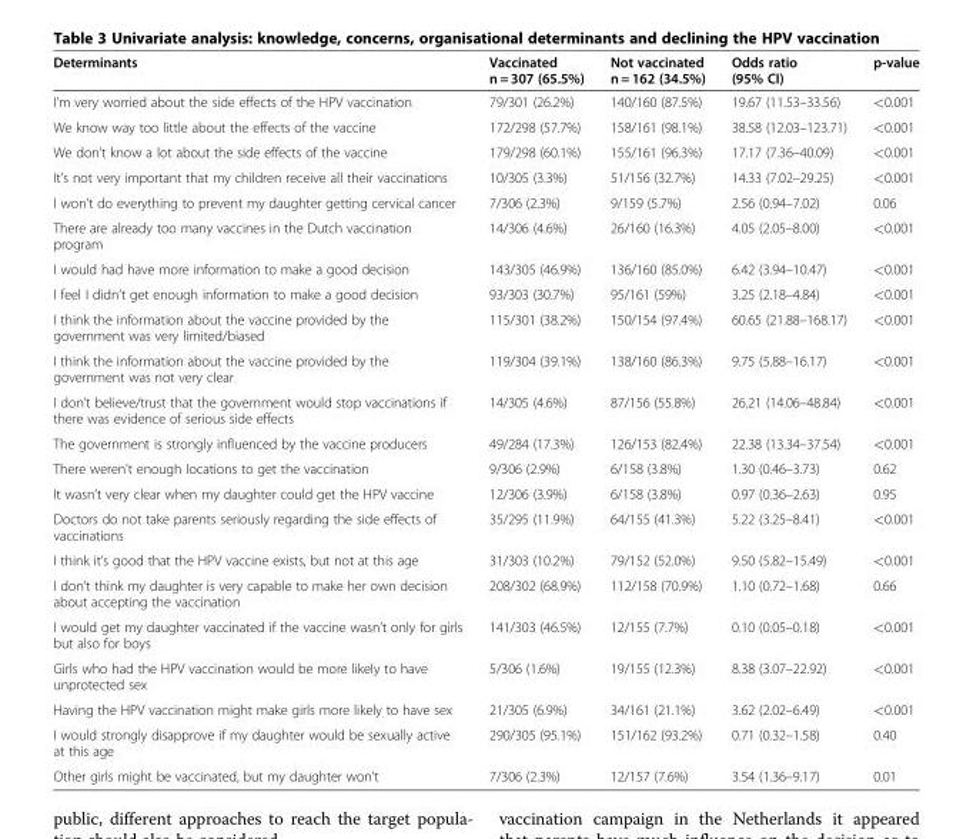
<table><thead><tr><td>Determinants</td><td>Vaccinated n = 307 (65.5%)</td><td>Not vaccinated n = 162 (34.5%)</td><td>Odds ratio (95% CI)</td><td>p-value</td></tr></thead><tbody><tr><td>I’m very worried about the side effects of the HPV vaccination</td><td>79/301 (26.2%)</td><td>140/160 (87.5%)</td><td>19.67 (11.53–33.56)</td><td>&lt;0.001</td></tr><tr><td>We know way too little about the effects of the vaccine</td><td>172/298 (57.7%)</td><td>158/161 (98.1%)</td><td>38.58 (12.03–123.71)</td><td>&lt;0.001</td></tr><tr><td>We don’t know a lot about the side effects of the vaccine</td><td>179/298 (60.1%)</td><td>155/161 (96.3%)</td><td>17.17 (7.36–40.09)</td><td>&lt;0.001</td></tr><tr><td>It’s not very important that my children receive all their vaccinations</td><td>10/305 (3.3%)</td><td>51/156 (32.7%)</td><td>14.33 (7.02–29.25)</td><td>&lt;0.001</td></tr><tr><td>I won’t do everything to prevent my daughter getting cervical cancer</td><td>7/306 (2.3%)</td><td>9/159 (5.7%)</td><td>2.56 (0.94–7.02)</td><td>0.06</td></tr><tr><td>There are already too many vaccines in the Dutch vaccination program</td><td>14/306 (4.6%)</td><td>26/160 (16.3%)</td><td>4.05 (2.05–8.00)</td><td>&lt;0.001</td></tr><tr><td>I would had have more information to make a good decision</td><td>143/305 (46.9%)</td><td>136/160 (85.0%)</td><td>6.42 (3.94–10.47)</td><td>&lt;0.001</td></tr><tr><td>I feel I didn’t get enough information to make a good decision</td><td>93/303 (30.7%)</td><td>95/161 (59%)</td><td>3.25 (2.18–4.84)</td><td>&lt;0.001</td></tr><tr><td>I think the information about the vaccine provided by the government was very limited/biased</td><td>115/301 (38.2%)</td><td>150/154 (97.4%)</td><td>60.65 (21.88–168.17)</td><td>&lt;0.001</td></tr><tr><td>I think the information about the vaccine provided by the government was not very clear</td><td>119/304 (39.1%)</td><td>138/160 (86.3%)</td><td>9.75 (5.88–16.17)</td><td>&lt;0.001</td></tr><tr><td>I don’t believe/trust that the government would stop vaccinations if there was evidence of serious side effects</td><td>14/305 (4.6%)</td><td>87/156 (55.8%)</td><td>26.21 (14.06–48.84)</td><td>&lt;0.001</td></tr><tr><td>The government is strongly influenced by the vaccine producers</td><td>49/284 (17.3%)</td><td>126/153 (82.4%)</td><td>22.38 (13.34–37.54)</td><td>&lt;0.001</td></tr><tr><td>There weren’t enough locations to get the vaccination</td><td>9/306 (2.9%)</td><td>6/158 (3.8%)</td><td>1.30 (0.46–3.73)</td><td>0.62</td></tr><tr><td>It wasn’t very clear when my daughter could get the HPV vaccine</td><td>12/306 (3.9%)</td><td>6/158 (3.8%)</td><td>0.97 (0.36–2.63)</td><td>0.95</td></tr><tr><td>Doctors do not take parents seriously regarding the side effects of vaccinations</td><td>35/295 (11.9%)</td><td>64/155 (41.3%)</td><td>5.22 (3.25–8.41)</td><td>&lt;0.001</td></tr><tr><td>I think it’s good that the HPV vaccine exists, but not at this age</td><td>31/303 (10.2%)</td><td>79/152 (52.0%)</td><td>9.50 (5.82–15.49)</td><td>&lt;0.001</td></tr><tr><td>I don’t think my daughter is very capable to make her own decision about accepting the vaccination</td><td>208/302 (68.9%)</td><td>112/158 (70.9%)</td><td>1.10 (0.72–1.68)</td><td>0.66</td></tr><tr><td>I would get my daughter vaccinated if the vaccine wasn’t only for girls but also for boys</td><td>141/303 (46.5%)</td><td>12/155 (7.7%)</td><td>0.10 (0.05–0.18)</td><td>&lt;0.001</td></tr><tr><td>Girls who had the HPV vaccination would be more likely to have unprotected sex</td><td>5/306 (1.6%)</td><td>19/155 (12.3%)</td><td>8.38 (3.07–22.92)</td><td>&lt;0.001</td></tr><tr><td>Having the HPV vaccination might make girls more likely to have sex</td><td>21/305 (6.9%)</td><td>34/161 (21.1%)</td><td>3.62 (2.02–6.49)</td><td>&lt;0.001</td></tr><tr><td>I would strongly disapprove if my daughter would be sexually active at this age</td><td>290/305 (95.1%)</td><td>151/162 (93.2%)</td><td>0.71 (0.32–1.58)</td><td>0.40</td></tr><tr><td>Other girls might be vaccinated, but my daughter won’t</td><td>7/306 (2.3%)</td><td>12/157 (7.6%)</td><td>3.54 (1.36–9.17)</td><td>0.01</td></tr></tbody></table>